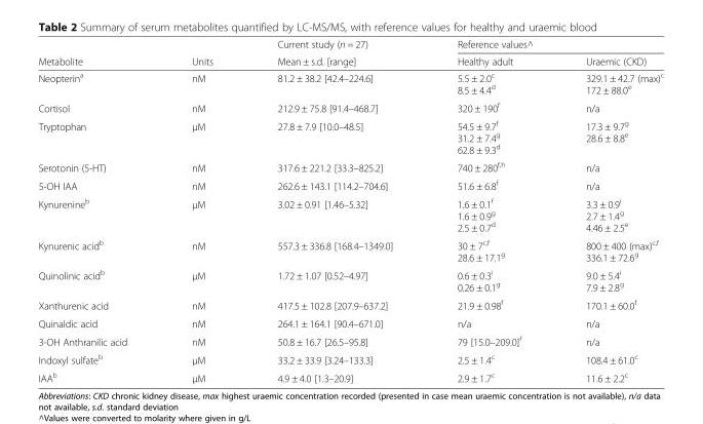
<table><thead><tr><td rowspan="2">Metabolite</td><td rowspan="2">Units</td><td rowspan="2">Current study (n = 27) Mean ± s.d. [range]</td><td colspan="2">Reference values^</td></tr><tr><td>Healthy adult</td><td>Uraemic (CKD)</td></tr></thead><tbody><tr><td>Neopterin<sup>a</sup></td><td>nM</td><td>81.2 ± 38.2 [42.4–224.6]</td><td>5.5 ± 2.0<sup>c</sup> 8.5 ± 4.4<sup>d</sup></td><td>329.1 ± 42.7 (max)<sup>c</sup> 172 ± 88.0<sup>e</sup></td></tr><tr><td>Cortisol</td><td>nM</td><td>212.9 ± 75.8 [91.4–468.7]</td><td>320 ± 190<sup>f</sup></td><td>n/a</td></tr><tr><td>Tryptophan</td><td>μM</td><td>27.8 ± 7.9 [10.0–48.5]</td><td>54.5 ± 9.7<sup>f</sup> 31.2 ± 7.4<sup>g</sup> 62.8 ± 9.3<sup>d</sup></td><td>17.3 ± 9.7<sup>g</sup> 28.6 ± 8.8<sup>e</sup></td></tr><tr><td>Serotonin (5-HT)</td><td>nM</td><td>317.6 ± 221.2 [33.3–825.2]</td><td>740 ± 280<sup>f,h</sup></td><td>n/a</td></tr><tr><td>5-OH IAA</td><td>nM</td><td>262.6 ± 143.1 [114.2–704.6]</td><td>51.6 ± 6.8<sup>f</sup></td><td>n/a</td></tr><tr><td>Kynurenine<sup>b</sup></td><td>μM</td><td>3.02 ± 0.91 [1.46–5.32]</td><td>1.6 ± 0.1<sup>f</sup> 1.6 ± 0.9<sup>g</sup> 2.5 ± 0.7<sup>d</sup></td><td>3.3 ± 0.9<sup>i</sup> 2.7 ± 1.4<sup>g</sup> 4.46 ± 2.5<sup>e</sup></td></tr><tr><td>Kynurenic acid<sup>b</sup></td><td>nM</td><td>557.3 ± 336.8 [168.4–1349.0]</td><td>30 ± 7<sup>c,f</sup> 28.6 ± 17.1<sup>g</sup></td><td>800 ± 400 (max)<sup>c,f</sup> 336.1 ± 72.6<sup>g</sup></td></tr><tr><td>Quinolinic acid<sup>b</sup></td><td>μM</td><td>1.72 ± 1.07 [0.52–4.97]</td><td>0.6 ± 0.3<sup>i</sup> 0.26 ± 0.1<sup>g</sup></td><td>9.0 ± 5.4<sup>i</sup> 7.9 ± 2.8<sup>g</sup></td></tr><tr><td>Xanthurenic acid</td><td>nM</td><td>417.5 ± 102.8 [207.9–637.2]</td><td>21.9 ± 0.98<sup>f</sup></td><td>170.1 ± 60.0<sup>f</sup></td></tr><tr><td>Quinaldic acid</td><td>nM</td><td>264.1 ± 164.1 [90.4–671.0]</td><td>n/a</td><td>n/a</td></tr><tr><td>3-OH Anthranilic acid</td><td>nM</td><td>50.8 ± 16.7 [26.5–95.8]</td><td>79 [15.0–209.0]<sup>f</sup></td><td>n/a</td></tr><tr><td>Indoxyl sulfate<sup>b</sup></td><td>μM</td><td>33.2 ± 33.9 [3.24–133.3]</td><td>2.5 ± 1.4<sup>c</sup></td><td>108.4 ± 61.0<sup>c</sup></td></tr><tr><td>IAA<sup>b</sup></td><td>μM</td><td>4.9 ± 4.0 [1.3–20.9]</td><td>2.9 ± 1.7<sup>c</sup></td><td>11.6 ± 2.2<sup>c</sup></td></tr></tbody></table>